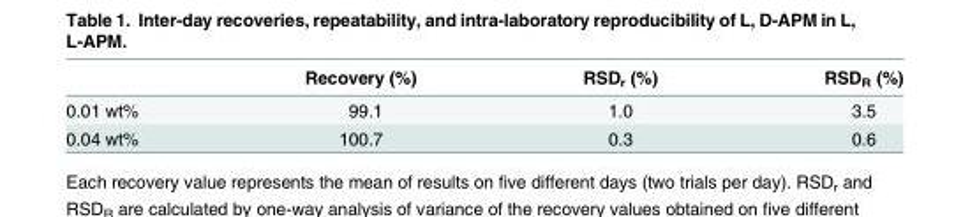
<table><thead><tr><td></td><td>Recovery (%)</td><td>RSD<sub>r</sub> (%)</td><td>RSD<sub>R</sub> (%)</td></tr></thead><tbody><tr><td>0.01 wt%</td><td>99.1</td><td>1.0</td><td>3.5</td></tr><tr><td>0.04 wt%</td><td>100.7</td><td>0.3</td><td>0.6</td></tr></tbody></table>